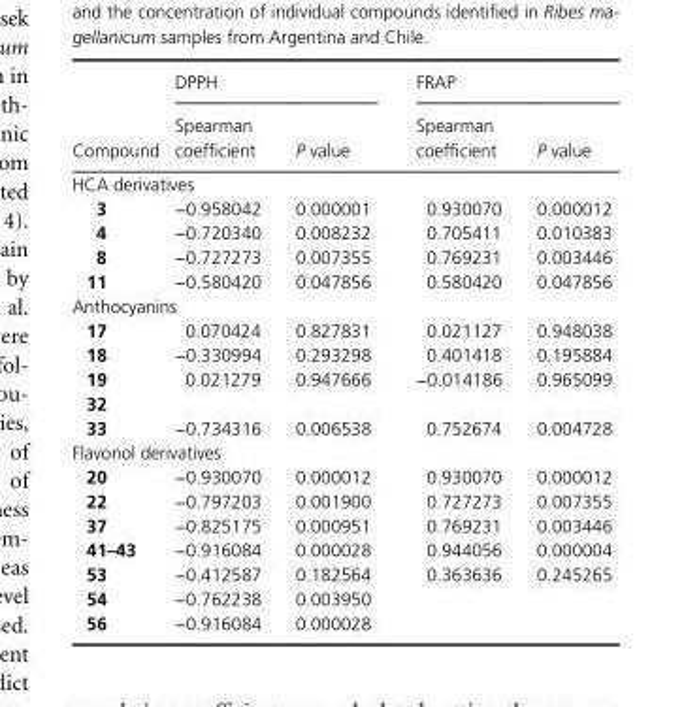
<table><thead><tr><td rowspan="2">Compound</td><td colspan="2">DPPH</td><td colspan="2">FRAP</td></tr><tr><td>Spearman coefficient</td><td>P value</td><td>Spearman coefficient</td><td>P value</td></tr></thead><tbody><tr><td colspan="5">HCA derivatives</td></tr><tr><td>3</td><td>−0.958042</td><td>0.000001</td><td>0.930070</td><td>0.000012</td></tr><tr><td>4</td><td>−0.720340</td><td>0.008232</td><td>0.705411</td><td>0.010383</td></tr><tr><td>8</td><td>−0.727273</td><td>0.007355</td><td>0.769231</td><td>0.003446</td></tr><tr><td>11</td><td>−0.580420</td><td>0.047856</td><td>0.580420</td><td>0.047856</td></tr><tr><td colspan="5">Anthocyanins</td></tr><tr><td>17</td><td>0.070424</td><td>0.827831</td><td>0.021127</td><td>0.948038</td></tr><tr><td>18</td><td>−0.330994</td><td>0.293298</td><td>0.401418</td><td>0.195884</td></tr><tr><td>19</td><td>0.021279</td><td>0.947666</td><td>−0.014186</td><td>0.965099</td></tr><tr><td colspan="5">32</td></tr><tr><td>33</td><td>−0.734316</td><td>0.006538</td><td>0.752674</td><td>0.004728</td></tr><tr><td colspan="5">Flavonol derivatives</td></tr><tr><td>20</td><td>−0.930070</td><td>0.000012</td><td>0.930070</td><td>0.000012</td></tr><tr><td>22</td><td>−0.797203</td><td>0.001900</td><td>0.727273</td><td>0.007355</td></tr><tr><td>37</td><td>−0.825175</td><td>0.000951</td><td>0.769231</td><td>0.003446</td></tr><tr><td>41–43</td><td>−0.916084</td><td>0.000028</td><td>0.944056</td><td>0.000004</td></tr><tr><td>53</td><td>−0.412587</td><td>0.182564</td><td>0.363636</td><td>0.245265</td></tr><tr><td>54</td><td>−0.762238</td><td>0.003950</td><td></td><td></td></tr><tr><td>56</td><td>−0.916084</td><td>0.000028</td><td></td><td></td></tr></tbody></table>